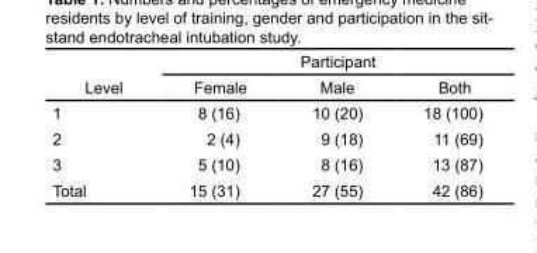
<table><thead><tr><td rowspan="2">Level</td><td colspan="3">Participant</td></tr><tr><td>Female</td><td>Male</td><td>Both</td></tr></thead><tbody><tr><td>1</td><td>8 (16)</td><td>10 (20)</td><td>18 (100)</td></tr><tr><td>2</td><td>2 (4)</td><td>9 (18)</td><td>11 (69)</td></tr><tr><td>3</td><td>5 (10)</td><td>8 (16)</td><td>13 (87)</td></tr><tr><td>Total</td><td>15 (31)</td><td>27 (55)</td><td>42 (86)</td></tr></tbody></table>